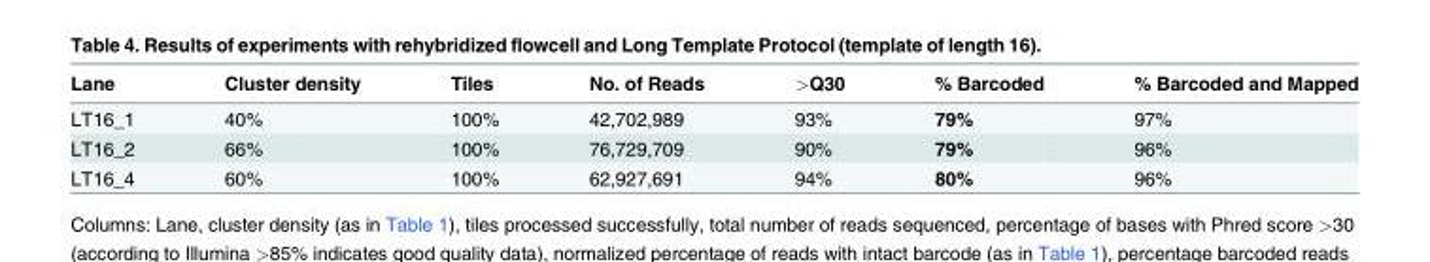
<table><thead><tr><td>Lane</td><td>Cluster density</td><td>Tiles</td><td>No. of Reads</td><td>&gt;Q30</td><td>% Barcoded</td><td>% Barcoded and Mapped</td></tr></thead><tbody><tr><td>LT16_1</td><td>40%</td><td>100%</td><td>42,702,989</td><td>93%</td><td>79%</td><td>97%</td></tr><tr><td>LT16_2</td><td>66%</td><td>100%</td><td>76,729,709</td><td>90%</td><td>79%</td><td>96%</td></tr><tr><td>LT16_4</td><td>60%</td><td>100%</td><td>62,927,691</td><td>94%</td><td>80%</td><td>96%</td></tr></tbody></table>